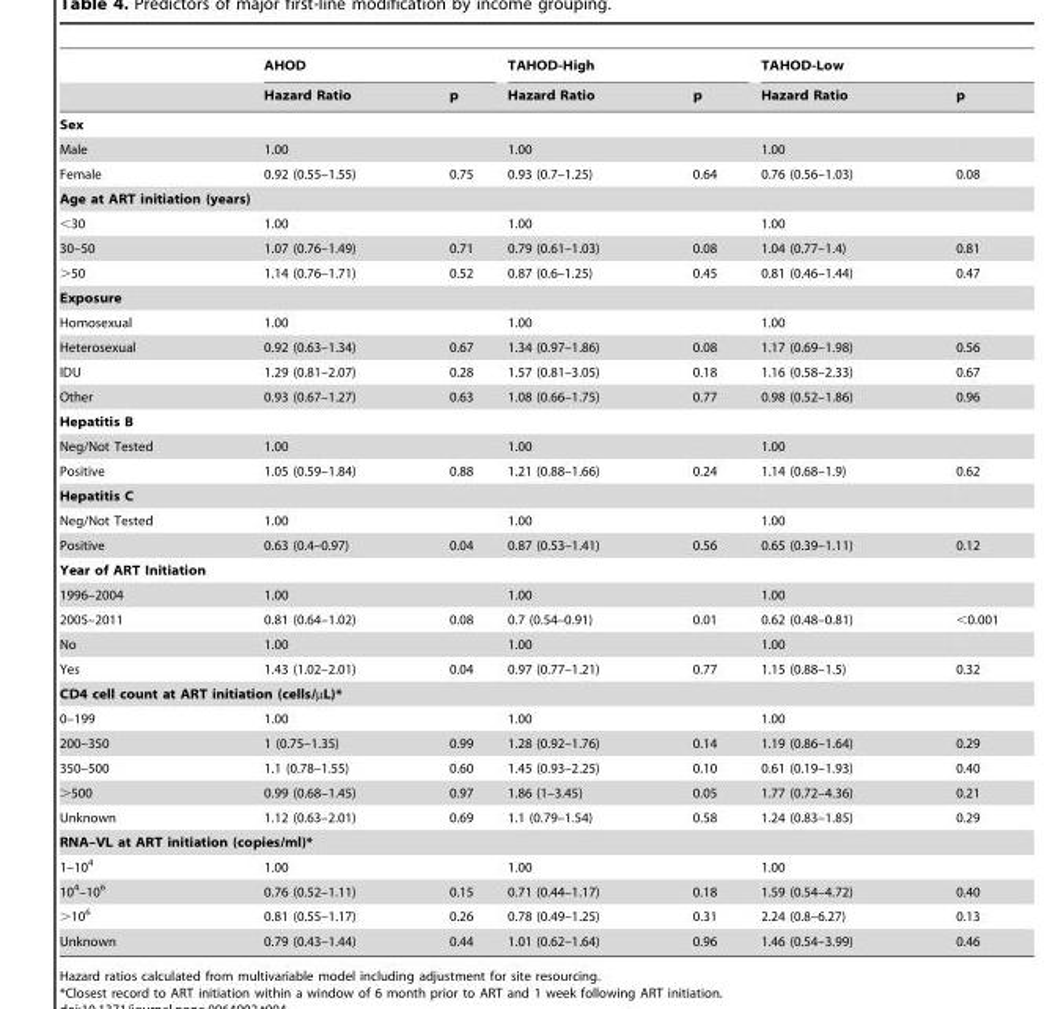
<table><thead><tr><td rowspan="2"></td><td colspan="2">AHOD</td><td colspan="2">TAHOD-High</td><td colspan="2">TAHOD-Low</td></tr><tr><td>Hazard Ratio</td><td>p</td><td>Hazard Ratio</td><td>p</td><td>Hazard Ratio</td><td>p</td></tr></thead><tbody><tr><td colspan="7">Sex</td></tr><tr><td>Male</td><td>1.00</td><td></td><td>1.00</td><td></td><td>1.00</td><td></td></tr><tr><td>Female</td><td>0.92 (0.55–1.55)</td><td>0.75</td><td>0.93 (0.7–1.25)</td><td>0.64</td><td>0.76 (0.56–1.03)</td><td>0.08</td></tr><tr><td colspan="7">Age at ART initiation (years)</td></tr><tr><td>&lt;30</td><td>1.00</td><td></td><td>1.00</td><td></td><td>1.00</td><td></td></tr><tr><td>30–50</td><td>1.07 (0.76–1.49)</td><td>0.71</td><td>0.79 (0.61–1.03)</td><td>0.08</td><td>1.04 (0.77–1.4)</td><td>0.81</td></tr><tr><td>&gt;50</td><td>1.14 (0.76–1.71)</td><td>0.52</td><td>0.87 (0.6–1.25)</td><td>0.45</td><td>0.81 (0.46–1.44)</td><td>0.47</td></tr><tr><td colspan="7">Exposure</td></tr><tr><td>Homosexual</td><td>1.00</td><td></td><td>1.00</td><td></td><td>1.00</td><td></td></tr><tr><td>Heterosexual</td><td>0.92 (0.63–1.34)</td><td>0.67</td><td>1.34 (0.97–1.86)</td><td>0.08</td><td>1.17 (0.69–1.98)</td><td>0.56</td></tr><tr><td>IDU</td><td>1.29 (0.81–2.07)</td><td>0.28</td><td>1.57 (0.81–3.05)</td><td>0.18</td><td>1.16 (0.58–2.33)</td><td>0.67</td></tr><tr><td>Other</td><td>0.93 (0.67–1.27)</td><td>0.63</td><td>1.08 (0.66–1.75)</td><td>0.77</td><td>0.98 (0.52–1.86)</td><td>0.96</td></tr><tr><td colspan="7">Hepatitis B</td></tr><tr><td>Neg/Not Tested</td><td>1.00</td><td></td><td>1.00</td><td></td><td>1.00</td><td></td></tr><tr><td>Positive</td><td>1.05 (0.59–1.84)</td><td>0.88</td><td>1.21 (0.88–1.66)</td><td>0.24</td><td>1.14 (0.68–1.9)</td><td>0.62</td></tr><tr><td colspan="7">Hepatitis C</td></tr><tr><td>Neg/Not Tested</td><td>1.00</td><td></td><td>1.00</td><td></td><td>1.00</td><td></td></tr><tr><td>Positive</td><td>0.63 (0.4–0.97)</td><td>0.04</td><td>0.87 (0.53–1.41)</td><td>0.56</td><td>0.65 (0.39–1.11)</td><td>0.12</td></tr><tr><td colspan="7">Year of ART Initiation</td></tr><tr><td>1996–2004</td><td>1.00</td><td></td><td>1.00</td><td></td><td>1.00</td><td></td></tr><tr><td>2005–2011</td><td>0.81 (0.64–1.02)</td><td>0.08</td><td>0.7 (0.54–0.91)</td><td>0.01</td><td>0.62 (0.48–0.81)</td><td>&lt;0.001</td></tr><tr><td>No</td><td>1.00</td><td></td><td>1.00</td><td></td><td>1.00</td><td></td></tr><tr><td>Yes</td><td>1.43 (1.02–2.01)</td><td>0.04</td><td>0.97 (0.77–1.21)</td><td>0.77</td><td>1.15 (0.88–1.5)</td><td>0.32</td></tr><tr><td colspan="7">CD4 cell count at ART initiation (cells/µL)*</td></tr><tr><td>0–199</td><td>1.00</td><td></td><td>1.00</td><td></td><td>1.00</td><td></td></tr><tr><td>200–350</td><td>1 (0.75–1.35)</td><td>0.99</td><td>1.28 (0.92–1.76)</td><td>0.14</td><td>1.19 (0.86–1.64)</td><td>0.29</td></tr><tr><td>350–500</td><td>1.1 (0.78–1.55)</td><td>0.60</td><td>1.45 (0.93–2.25)</td><td>0.10</td><td>0.61 (0.19–1.93)</td><td>0.40</td></tr><tr><td>&gt;500</td><td>0.99 (0.68–1.45)</td><td>0.97</td><td>1.86 (1–3.45)</td><td>0.05</td><td>1.77 (0.72–4.36)</td><td>0.21</td></tr><tr><td>Unknown</td><td>1.12 (0.63–2.01)</td><td>0.69</td><td>1.1 (0.79–1.54)</td><td>0.58</td><td>1.24 (0.83–1.85)</td><td>0.29</td></tr><tr><td colspan="7">RNA–VL at ART initiation (copies/ml)*</td></tr><tr><td>1–10<sup>4</sup></td><td>1.00</td><td></td><td>1.00</td><td></td><td>1.00</td><td></td></tr><tr><td>10<sup>4</sup>–10<sup>6</sup></td><td>0.76 (0.52–1.11)</td><td>0.15</td><td>0.71 (0.44–1.17)</td><td>0.18</td><td>1.59 (0.54–4.72)</td><td>0.40</td></tr><tr><td>&gt;10<sup>6</sup></td><td>0.81 (0.55–1.17)</td><td>0.26</td><td>0.78 (0.49–1.25)</td><td>0.31</td><td>2.24 (0.8–6.27)</td><td>0.13</td></tr><tr><td>Unknown</td><td>0.79 (0.43–1.44)</td><td>0.44</td><td>1.01 (0.62–1.64)</td><td>0.96</td><td>1.46 (0.54–3.99)</td><td>0.46</td></tr></tbody></table>